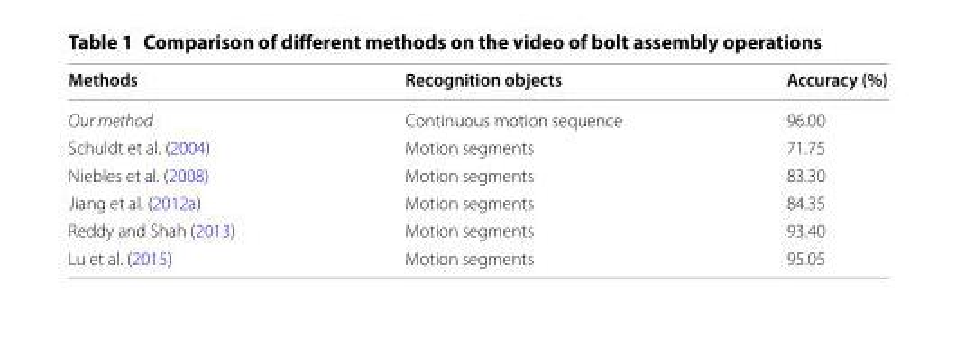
<table><thead><tr><td>Methods</td><td>Recognition objects</td><td>Accuracy (%)</td></tr></thead><tbody><tr><td>Our method</td><td>Continuous motion sequence</td><td>96.00</td></tr><tr><td>Schuldt et al. (2004)</td><td>Motion segments</td><td>71.75</td></tr><tr><td>Niebles et al. (2008)</td><td>Motion segments</td><td>83.30</td></tr><tr><td>Jiang et al. (2012a)</td><td>Motion segments</td><td>84.35</td></tr><tr><td>Reddy and Shah (2013)</td><td>Motion segments</td><td>93.40</td></tr><tr><td>Lu et al. (2015)</td><td>Motion segments</td><td>95.05</td></tr></tbody></table>